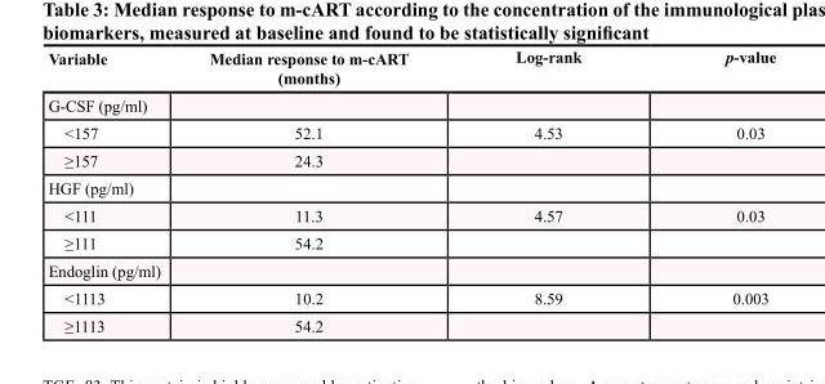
<table><thead><tr><td>Variable</td><td>Median response to m-cART (months)</td><td>Log-rank</td><td>p-value</td></tr></thead><tbody><tr><td colspan="4">G-CSF (pg/ml)</td></tr><tr><td>&lt;157</td><td>52.1</td><td>4.53</td><td>0.03</td></tr><tr><td>≥157</td><td>24.3</td><td></td><td></td></tr><tr><td colspan="4">HGF (pg/ml)</td></tr><tr><td>&lt;111</td><td>11.3</td><td>4.57</td><td>0.03</td></tr><tr><td>≥111</td><td>54.2</td><td></td><td></td></tr><tr><td colspan="4">Endoglin (pg/ml)</td></tr><tr><td>&lt;1113</td><td>10.2</td><td>8.59</td><td>0.003</td></tr><tr><td>≥1113</td><td>54.2</td><td></td><td></td></tr></tbody></table>